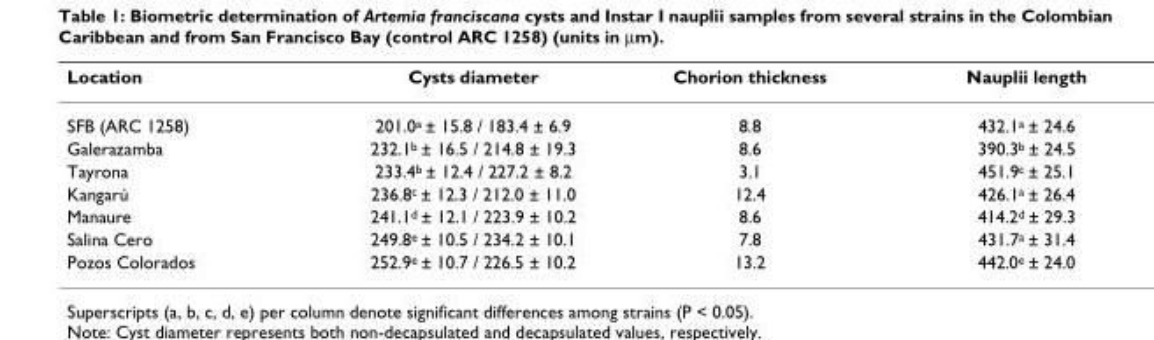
<table><thead><tr><td>Location</td><td>Cysts diameter</td><td>Chorion thickness</td><td>Nauplii length</td></tr></thead><tbody><tr><td>SFB (ARC 1258)</td><td>201.0<sup>a</sup> ± 15.8 / 183.4 ± 6.9</td><td>8.8</td><td>432.1<sup>a</sup> ± 24.6</td></tr><tr><td>Galerazamba</td><td>232.1<sup>b</sup> ± 16.5 / 214.8 ± 19.3</td><td>8.6</td><td>390.3<sup>b</sup> ± 24.5</td></tr><tr><td>Tayrona</td><td>233.4<sup>b</sup> ± 12.4 / 227.2 ± 8.2</td><td>3.1</td><td>451.9<sup>c</sup> ± 25.1</td></tr><tr><td>Kangarú</td><td>236.8<sup>c</sup> ± 12.3 / 212.0 ± 11.0</td><td>12.4</td><td>426.1<sup>a</sup> ± 26.4</td></tr><tr><td>Manaure</td><td>241.1<sup>d</sup> ± 12.1 / 223.9 ± 10.2</td><td>8.6</td><td>414.2<sup>d</sup> ± 29.3</td></tr><tr><td>Salina Cero</td><td>249.8<sup>e</sup> ± 10.5 / 234.2 ± 10.1</td><td>7.8</td><td>431.7<sup>a</sup> ± 31.4</td></tr><tr><td>Pozos Colorados</td><td>252.9<sup>e</sup> ± 10.7 / 226.5 ± 10.2</td><td>13.2</td><td>442.0<sup>e</sup> ± 24.0</td></tr></tbody></table>